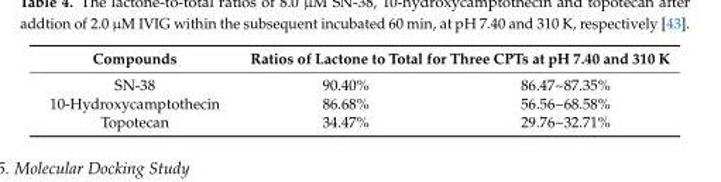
<table><thead><tr><td rowspan="2">Compounds SN-38</td><td colspan="2">Ratios of Lactone to Total for Three CPTs at pH 7.40 and 310 K</td></tr><tr><td>90.40%</td><td>86.47~87.35%</td></tr></thead><tbody><tr><td>10-Hydroxycamptothecin</td><td>86.68%</td><td>56.56~68.58%</td></tr><tr><td>Topotecan</td><td>34.47%</td><td>29.76~32.71%</td></tr></tbody></table>